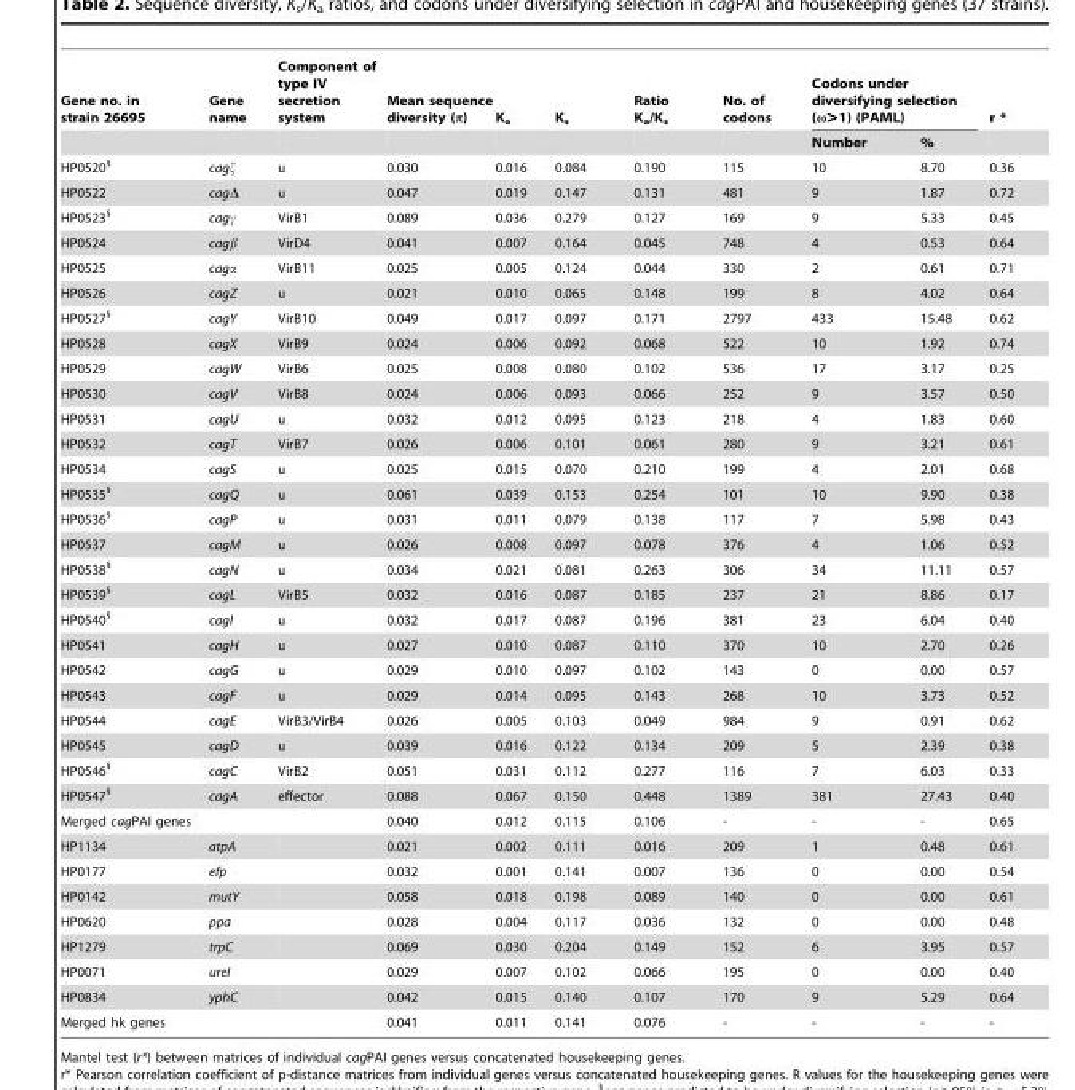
<table><thead><tr><td rowspan="2">Gene no. in strain 26695</td><td rowspan="2">Gene name</td><td rowspan="2">Component of type IV secretion system</td><td rowspan="2">Mean sequence diversity (π)</td><td rowspan="2">K<sub>a</sub></td><td rowspan="2">K<sub>s</sub></td><td rowspan="2">Ratio K<sub>a</sub>/K<sub>s</sub></td><td rowspan="2">No. of codons</td><td colspan="2">Codons under diversifying selection (ω&gt;1) (PAML)</td><td rowspan="2">r *</td></tr><tr><td>Number</td><td>%</td></tr></thead><tbody><tr><td>HP0520<sup>§</sup></td><td>cagζ</td><td>u</td><td>0.030</td><td>0.016</td><td>0.084</td><td>0.190</td><td>115</td><td>10</td><td>8.70</td><td>0.36</td></tr><tr><td>HP0522</td><td>cagΔ</td><td>u</td><td>0.047</td><td>0.019</td><td>0.147</td><td>0.131</td><td>481</td><td>9</td><td>1.87</td><td>0.72</td></tr><tr><td>HP0523<sup>§</sup></td><td>cagγ</td><td>VirB1</td><td>0.089</td><td>0.036</td><td>0.279</td><td>0.127</td><td>169</td><td>9</td><td>5.33</td><td>0.45</td></tr><tr><td>HP0524</td><td>cagβ</td><td>VirD4</td><td>0.041</td><td>0.007</td><td>0.164</td><td>0.045</td><td>748</td><td>4</td><td>0.53</td><td>0.64</td></tr><tr><td>HP0525</td><td>cagα</td><td>VirB11</td><td>0.025</td><td>0.005</td><td>0.124</td><td>0.044</td><td>330</td><td>2</td><td>0.61</td><td>0.71</td></tr><tr><td>HP0526</td><td>cagZ</td><td>u</td><td>0.021</td><td>0.010</td><td>0.065</td><td>0.148</td><td>199</td><td>8</td><td>4.02</td><td>0.64</td></tr><tr><td>HP0527<sup>§</sup></td><td>cagY</td><td>VirB10</td><td>0.049</td><td>0.017</td><td>0.097</td><td>0.171</td><td>2797</td><td>433</td><td>15.48</td><td>0.62</td></tr><tr><td>HP0528</td><td>cagX</td><td>VirB9</td><td>0.024</td><td>0.006</td><td>0.092</td><td>0.068</td><td>522</td><td>10</td><td>1.92</td><td>0.74</td></tr><tr><td>HP0529</td><td>cagW</td><td>VirB6</td><td>0.025</td><td>0.008</td><td>0.080</td><td>0.102</td><td>536</td><td>17</td><td>3.17</td><td>0.25</td></tr><tr><td>HP0530</td><td>cagV</td><td>VirB8</td><td>0.024</td><td>0.006</td><td>0.093</td><td>0.066</td><td>252</td><td>9</td><td>3.57</td><td>0.50</td></tr><tr><td>HP0531</td><td>cagU</td><td>u</td><td>0.032</td><td>0.012</td><td>0.095</td><td>0.123</td><td>218</td><td>4</td><td>1.83</td><td>0.60</td></tr><tr><td>HP0532</td><td>cagT</td><td>VirB7</td><td>0.026</td><td>0.006</td><td>0.101</td><td>0.061</td><td>280</td><td>9</td><td>3.21</td><td>0.61</td></tr><tr><td>HP0534</td><td>cagS</td><td>u</td><td>0.025</td><td>0.015</td><td>0.070</td><td>0.210</td><td>199</td><td>4</td><td>2.01</td><td>0.68</td></tr><tr><td>HP0535<sup>§</sup></td><td>cagQ</td><td>u</td><td>0.061</td><td>0.039</td><td>0.153</td><td>0.254</td><td>101</td><td>10</td><td>9.90</td><td>0.38</td></tr><tr><td>HP0536<sup>§</sup></td><td>cagP</td><td>u</td><td>0.031</td><td>0.011</td><td>0.079</td><td>0.138</td><td>117</td><td>7</td><td>5.98</td><td>0.43</td></tr><tr><td>HP0537</td><td>cagM</td><td>u</td><td>0.026</td><td>0.008</td><td>0.097</td><td>0.078</td><td>376</td><td>4</td><td>1.06</td><td>0.52</td></tr><tr><td>HP0538<sup>§</sup></td><td>cagN</td><td>u</td><td>0.034</td><td>0.021</td><td>0.081</td><td>0.263</td><td>306</td><td>34</td><td>11.11</td><td>0.57</td></tr><tr><td>HP0539<sup>§</sup></td><td>cagL</td><td>VirB5</td><td>0.032</td><td>0.016</td><td>0.087</td><td>0.185</td><td>237</td><td>21</td><td>8.86</td><td>0.17</td></tr><tr><td>HP0540<sup>§</sup></td><td>cagI</td><td>u</td><td>0.032</td><td>0.017</td><td>0.087</td><td>0.196</td><td>381</td><td>23</td><td>6.04</td><td>0.40</td></tr><tr><td>HP0541</td><td>cagH</td><td>u</td><td>0.027</td><td>0.010</td><td>0.087</td><td>0.110</td><td>370</td><td>10</td><td>2.70</td><td>0.26</td></tr><tr><td>HP0542</td><td>cagG</td><td>u</td><td>0.029</td><td>0.010</td><td>0.097</td><td>0.102</td><td>143</td><td>0</td><td>0.00</td><td>0.57</td></tr><tr><td>HP0543</td><td>cagF</td><td>u</td><td>0.029</td><td>0.014</td><td>0.095</td><td>0.143</td><td>268</td><td>10</td><td>3.73</td><td>0.52</td></tr><tr><td>HP0544</td><td>cagE</td><td>VirB3/VirB4</td><td>0.026</td><td>0.005</td><td>0.103</td><td>0.049</td><td>984</td><td>9</td><td>0.91</td><td>0.62</td></tr><tr><td>HP0545</td><td>cagD</td><td>u</td><td>0.039</td><td>0.016</td><td>0.122</td><td>0.134</td><td>209</td><td>5</td><td>2.39</td><td>0.38</td></tr><tr><td>HP0546<sup>§</sup></td><td>cagC</td><td>VirB2</td><td>0.051</td><td>0.031</td><td>0.112</td><td>0.277</td><td>116</td><td>7</td><td>6.03</td><td>0.33</td></tr><tr><td>HP0547<sup>§</sup></td><td>cagA</td><td>effector</td><td>0.088</td><td>0.067</td><td>0.150</td><td>0.448</td><td>1389</td><td>381</td><td>27.43</td><td>0.40</td></tr><tr><td>Merged cagPAI genes</td><td></td><td></td><td>0.040</td><td>0.012</td><td>0.115</td><td>0.106</td><td>-</td><td>-</td><td>-</td><td>0.65</td></tr><tr><td>HP1134</td><td>atpA</td><td></td><td>0.021</td><td>0.002</td><td>0.111</td><td>0.016</td><td>209</td><td>1</td><td>0.48</td><td>0.61</td></tr><tr><td>HP0177</td><td>efp</td><td></td><td>0.032</td><td>0.001</td><td>0.141</td><td>0.007</td><td>136</td><td>0</td><td>0.00</td><td>0.54</td></tr><tr><td>HP0142</td><td>mutY</td><td></td><td>0.058</td><td>0.018</td><td>0.198</td><td>0.089</td><td>140</td><td>0</td><td>0.00</td><td>0.61</td></tr><tr><td>HP0620</td><td>ppa</td><td></td><td>0.028</td><td>0.004</td><td>0.117</td><td>0.036</td><td>132</td><td>0</td><td>0.00</td><td>0.48</td></tr><tr><td>HP1279</td><td>trpC</td><td></td><td>0.069</td><td>0.030</td><td>0.204</td><td>0.149</td><td>152</td><td>6</td><td>3.95</td><td>0.57</td></tr><tr><td>HP0071</td><td>ureI</td><td></td><td>0.029</td><td>0.007</td><td>0.102</td><td>0.066</td><td>195</td><td>0</td><td>0.00</td><td>0.40</td></tr><tr><td>HP0834</td><td>yphC</td><td></td><td>0.042</td><td>0.015</td><td>0.140</td><td>0.107</td><td>170</td><td>9</td><td>5.29</td><td>0.64</td></tr><tr><td>Merged hk genes</td><td></td><td></td><td>0.041</td><td>0.011</td><td>0.141</td><td>0.076</td><td>-</td><td>-</td><td>-</td><td>-</td></tr></tbody></table>